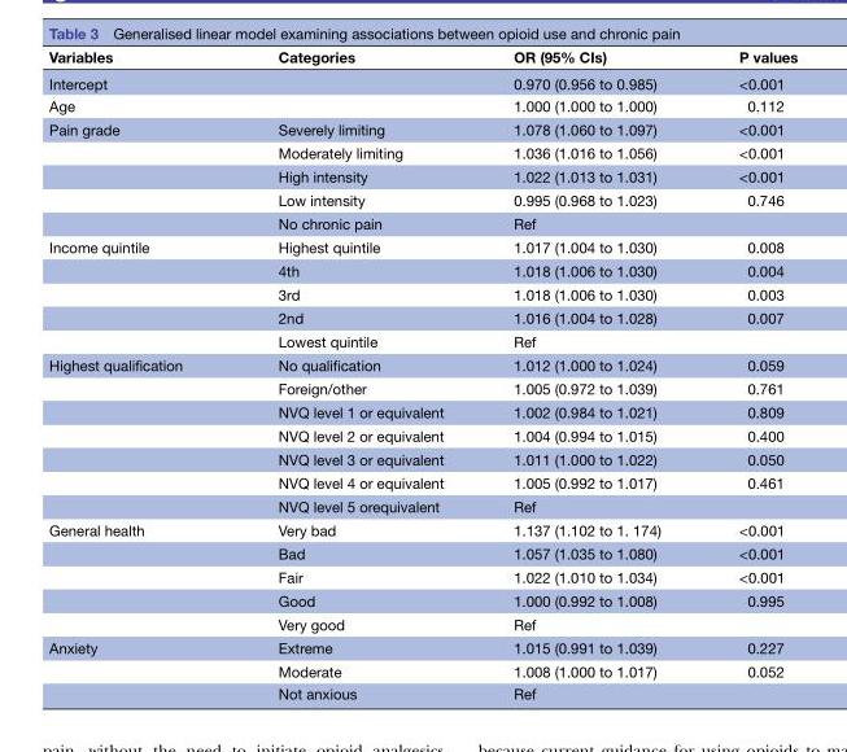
<table><thead><tr><td>Variables</td><td>Categories</td><td>OR (95% CIs)</td><td>P values</td></tr></thead><tbody><tr><td>Intercept</td><td></td><td>0.970 (0.956 to 0.985)</td><td>&lt;0.001</td></tr><tr><td>Age</td><td></td><td>1.000 (1.000 to 1.000)</td><td>0.112</td></tr><tr><td rowspan="5">Pain grade</td><td>Severely limiting</td><td>1.078 (1.060 to 1.097)</td><td>&lt;0.001</td></tr><tr><td>Moderately limiting</td><td>1.036 (1.016 to 1.056)</td><td>&lt;0.001</td></tr><tr><td>High intensity</td><td>1.022 (1.013 to 1.031)</td><td>&lt;0.001</td></tr><tr><td>Low intensity</td><td>0.995 (0.968 to 1.023)</td><td>0.746</td></tr><tr><td>No chronic pain</td><td>Ref</td><td></td></tr><tr><td rowspan="5">Income quintile</td><td>Highest quintile</td><td>1.017 (1.004 to 1.030)</td><td>0.008</td></tr><tr><td>4th</td><td>1.018 (1.006 to 1.030)</td><td>0.004</td></tr><tr><td>3rd</td><td>1.018 (1.006 to 1.030)</td><td>0.003</td></tr><tr><td>2nd</td><td>1.016 (1.004 to 1.028)</td><td>0.007</td></tr><tr><td>Lowest quintile</td><td>Ref</td><td></td></tr><tr><td rowspan="7">Highest qualification</td><td>No qualification</td><td>1.012 (1.000 to 1.024)</td><td>0.059</td></tr><tr><td>Foreign/other</td><td>1.005 (0.972 to 1.039)</td><td>0.761</td></tr><tr><td>NVQ level 1 or equivalent</td><td>1.002 (0.984 to 1.021)</td><td>0.809</td></tr><tr><td>NVQ level 2 or equivalent</td><td>1.004 (0.994 to 1.015)</td><td>0.400</td></tr><tr><td>NVQ level 3 or equivalent</td><td>1.011 (1.000 to 1.022)</td><td>0.050</td></tr><tr><td>NVQ level 4 or equivalent</td><td>1.005 (0.992 to 1.017)</td><td>0.461</td></tr><tr><td>NVQ level 5 orequivalent</td><td>Ref</td><td></td></tr><tr><td rowspan="5">General health</td><td>Very bad</td><td>1.137 (1.102 to 1. 174)</td><td>&lt;0.001</td></tr><tr><td>Bad</td><td>1.057 (1.035 to 1.080)</td><td>&lt;0.001</td></tr><tr><td>Fair</td><td>1.022 (1.010 to 1.034)</td><td>&lt;0.001</td></tr><tr><td>Good</td><td>1.000 (0.992 to 1.008)</td><td>0.995</td></tr><tr><td>Very good</td><td>Ref</td><td></td></tr><tr><td rowspan="3">Anxiety</td><td>Extreme</td><td>1.015 (0.991 to 1.039)</td><td>0.227</td></tr><tr><td>Moderate</td><td>1.008 (1.000 to 1.017)</td><td>0.052</td></tr><tr><td>Not anxious</td><td>Ref</td><td></td></tr></tbody></table>